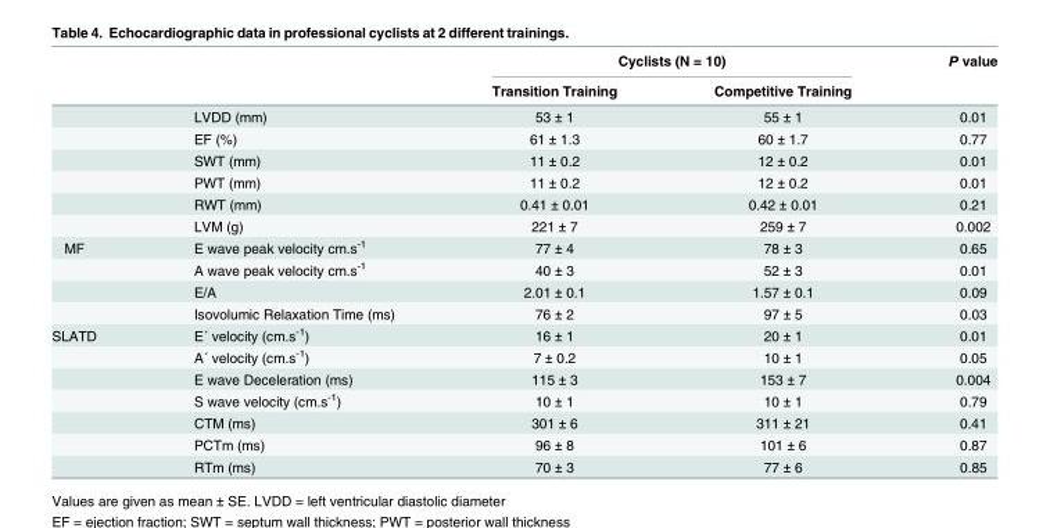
<table><thead><tr><td rowspan="2"></td><td rowspan="2"></td><td colspan="2">Cyclists (N = 10)</td><td rowspan="2">P value</td></tr><tr><td>Transition Training</td><td>Competitive Training</td></tr></thead><tbody><tr><td></td><td>LVDD (mm)</td><td>53 ± 1</td><td>55 ± 1</td><td>0.01</td></tr><tr><td></td><td>EF (%)</td><td>61 ± 1.3</td><td>60 ± 1.7</td><td>0.77</td></tr><tr><td></td><td>SWT (mm)</td><td>11 ± 0.2</td><td>12 ± 0.2</td><td>0.01</td></tr><tr><td></td><td>PWT (mm)</td><td>11 ± 0.2</td><td>12 ± 0.2</td><td>0.01</td></tr><tr><td></td><td>RWT (mm)</td><td>0.41 ± 0.01</td><td>0.42 ± 0.01</td><td>0.21</td></tr><tr><td></td><td>LVM (g)</td><td>221 ± 7</td><td>259 ± 7</td><td>0.002</td></tr><tr><td rowspan="4">MF</td><td>E wave peak velocity cm.s<sup>-1</sup></td><td>77 ± 4</td><td>78 ± 3</td><td>0.65</td></tr><tr><td>A wave peak velocity cm.s<sup>-1</sup></td><td>40 ± 3</td><td>52 ± 3</td><td>0.01</td></tr><tr><td>E/A</td><td>2.01 ± 0.1</td><td>1.57 ± 0.1</td><td>0.09</td></tr><tr><td>Isovolumic Relaxation Time (ms)</td><td>76 ± 2</td><td>97 ± 5</td><td>0.03</td></tr><tr><td rowspan="7">SLATD</td><td>E´ velocity (cm.s<sup>-1</sup>)</td><td>16 ± 1</td><td>20 ± 1</td><td>0.01</td></tr><tr><td>A´ velocity (cm.s<sup>-1</sup>)</td><td>7 ± 0.2</td><td>10 ± 1</td><td>0.05</td></tr><tr><td>E wave Deceleration (ms)</td><td>115 ± 3</td><td>153 ± 7</td><td>0.004</td></tr><tr><td>S wave velocity (cm.s<sup>-1</sup>)</td><td>10 ± 1</td><td>10 ± 1</td><td>0.79</td></tr><tr><td>CTM (ms)</td><td>301 ± 6</td><td>311 ± 21</td><td>0.41</td></tr><tr><td>PCTm (ms)</td><td>96 ± 8</td><td>101 ± 6</td><td>0.87</td></tr><tr><td>RTm (ms)</td><td>70 ± 3</td><td>77 ± 6</td><td>0.85</td></tr></tbody></table>